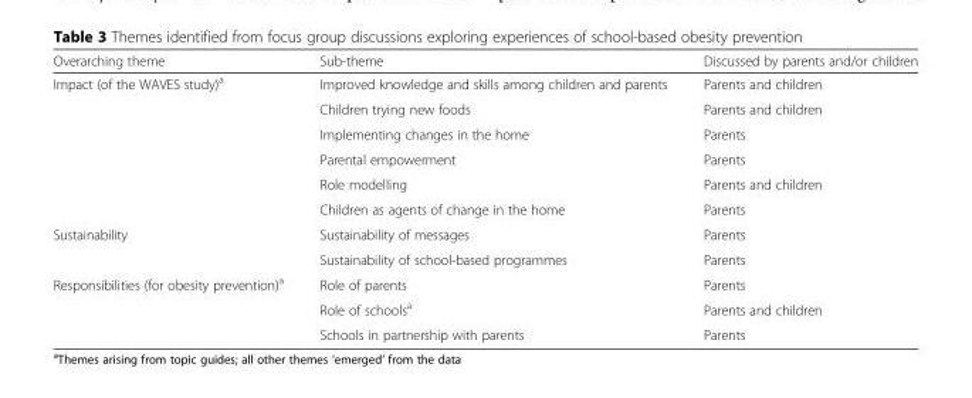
<table><thead><tr><td>Overarching theme</td><td>Sub-theme</td><td>Discussed by parents and/or children</td></tr></thead><tbody><tr><td rowspan="6">Impact (of the WAVES study)<sup>a</sup></td><td>Improved knowledge and skills among children and parents</td><td>Parents and children</td></tr><tr><td>Children trying new foods</td><td>Parents and children</td></tr><tr><td>Implementing changes in the home</td><td>Parents</td></tr><tr><td>Parental empowerment</td><td>Parents</td></tr><tr><td>Role modelling</td><td>Parents and children</td></tr><tr><td>Children as agents of change in the home</td><td>Parents</td></tr><tr><td rowspan="2">Sustainability</td><td>Sustainability of messages</td><td>Parents</td></tr><tr><td>Sustainability of school-based programmes</td><td>Parents</td></tr><tr><td rowspan="3">Responsibilities (for obesity prevention)<sup>a</sup></td><td>Role of parents</td><td>Parents</td></tr><tr><td>Role of schools<sup>a</sup></td><td>Parents and children</td></tr><tr><td>Schools in partnership with parents</td><td>Parents</td></tr></tbody></table>